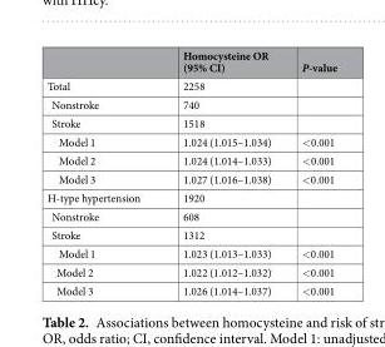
<table><thead><tr><td></td><td>Homocysteine OR (95% CI)</td><td>P-value</td></tr></thead><tbody><tr><td>Total</td><td>2258</td><td></td></tr><tr><td>Nonstroke</td><td>740</td><td></td></tr><tr><td>Stroke</td><td>1518</td><td></td></tr><tr><td>Model 1</td><td>1.024 (1.015–1.034)</td><td>&lt;0.001</td></tr><tr><td>Model 2</td><td>1.024 (1.014–1.033)</td><td>&lt;0.001</td></tr><tr><td>Model 3</td><td>1.027 (1.016–1.038)</td><td>&lt;0.001</td></tr><tr><td>H-type hypertension</td><td>1920</td><td></td></tr><tr><td>Nonstroke</td><td>608</td><td></td></tr><tr><td>Stroke</td><td>1312</td><td></td></tr><tr><td>Model 1</td><td>1.023 (1.013–1.033)</td><td>&lt;0.001</td></tr><tr><td>Model 2</td><td>1.022 (1.012–1.032)</td><td>&lt;0.001</td></tr><tr><td>Model 3</td><td>1.026 (1.014–1.037)</td><td>&lt;0.001</td></tr></tbody></table>